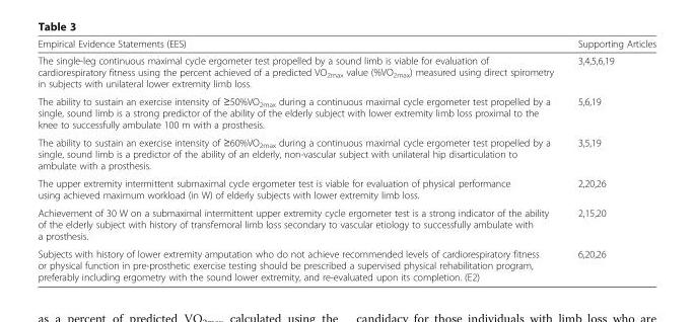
<table><thead><tr><td>Empirical Evidence Statements (EES)</td><td>Supporting Articles</td></tr></thead><tbody><tr><td>The single-leg continuous maximal cycle ergometer test propelled by a sound limb is viable for evaluation of cardiorespiratory fitness using the percent achieved of a predicted VO<sub>2max</sub> value (%VO<sub>2max</sub>) measured using direct spirometry in subjects with unilateral lower extremity limb loss.</td><td>3,4,5,6,19</td></tr><tr><td>The ability to sustain an exercise intensity of ≥50%VO<sub>2max</sub> during a continuous maximal cycle ergometer test propelled by a single, sound limb is a strong predictor of the ability of the elderly subject with lower extremity limb loss proximal to the knee to successfully ambulate 100 m with a prosthesis.</td><td>5,6,19</td></tr><tr><td>The ability to sustain an exercise intensity of ≥60%VO<sub>2max</sub> during a continuous maximal cycle ergometer test propelled by a single, sound limb is a predictor of the ability of an elderly, non-vascular subject with unilateral hip disarticulation to ambulate with a prosthesis.</td><td>3,5,19</td></tr><tr><td>The upper extremity intermittent submaximal cycle ergometer test is viable for evaluation of physical performance using achieved maximum workload (in W) of elderly subjects with lower extremity limb loss.</td><td>2,20,26</td></tr><tr><td>Achievement of 30 W on a submaximal intermittent upper extremity cycle ergometer test is a strong indicator of the ability of the elderly subject with history of transfemoral limb loss secondary to vascular etiology to successfully ambulate with a prosthesis.</td><td>2,15,20</td></tr><tr><td>Subjects with history of lower extremity amputation who do not achieve recommended levels of cardiorespiratory fitness or physical function in pre-prosthetic exercise testing should be prescribed a supervised physical rehabilitation program, preferably including ergometry with the sound lower extremity, and re-evaluated upon its completion. (E2)</td><td>6,20,26</td></tr></tbody></table>